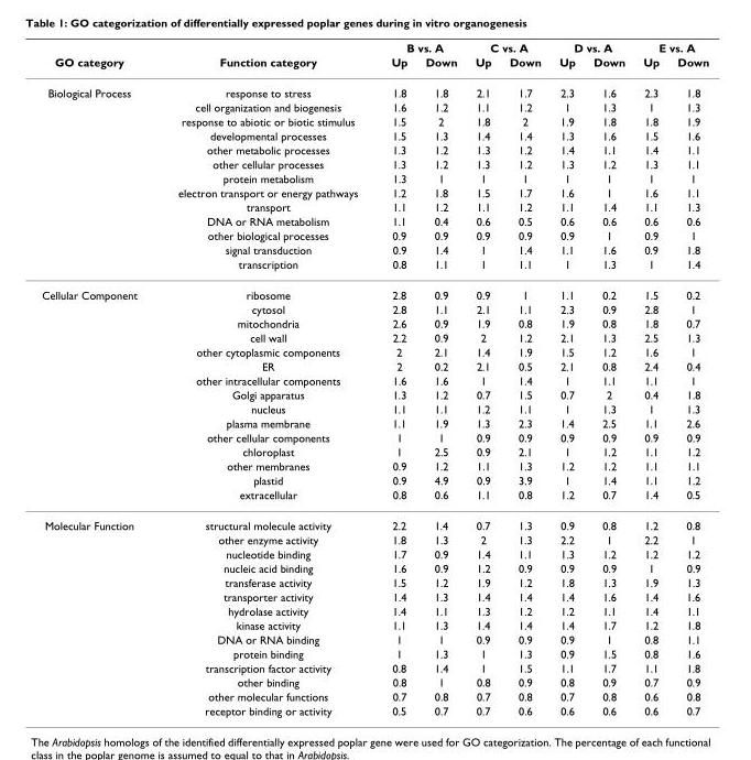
<table><thead><tr><td rowspan="2">GO category</td><td rowspan="2">Function category</td><td colspan="2">B vs. A</td><td colspan="2">C vs. A</td><td colspan="2">D vs. A</td><td colspan="2">E vs. A</td></tr><tr><td>Up</td><td>Down</td><td>Up</td><td>Down</td><td>Up</td><td>Down</td><td>Up</td><td>Down</td></tr></thead><tbody><tr><td rowspan="13">Biological Process</td><td>response to stress</td><td>1.8</td><td>1.8</td><td>2.1</td><td>1.7</td><td>2.3</td><td>1.6</td><td>2.3</td><td>1.8</td></tr><tr><td>cell organization and biogenesis</td><td>1.6</td><td>1.2</td><td>1.1</td><td>1.2</td><td>1</td><td>1.3</td><td>1</td><td>1.3</td></tr><tr><td>response to abiotic or biotic stimulus</td><td>1.5</td><td>2</td><td>1.8</td><td>2</td><td>1.9</td><td>1.8</td><td>1.8</td><td>1.9</td></tr><tr><td>developmental processes</td><td>1.5</td><td>1.3</td><td>1.4</td><td>1.4</td><td>1.3</td><td>1.6</td><td>1.5</td><td>1.6</td></tr><tr><td>other metabolic processes</td><td>1.3</td><td>1.2</td><td>1.3</td><td>1.2</td><td>1.4</td><td>1.1</td><td>1.4</td><td>1.1</td></tr><tr><td>other cellular processes</td><td>1.3</td><td>1.2</td><td>1.3</td><td>1.2</td><td>1.3</td><td>1.2</td><td>1.3</td><td>1.1</td></tr><tr><td>protein metabolism</td><td>1.3</td><td>1</td><td>1</td><td>1</td><td>1</td><td>1</td><td>1</td><td>1</td></tr><tr><td>electron transport or energy pathways</td><td>1.2</td><td>1.8</td><td>1.5</td><td>1.7</td><td>1.6</td><td>1</td><td>1.6</td><td>1.1</td></tr><tr><td>transport</td><td>1.1</td><td>1.2</td><td>1.1</td><td>1.2</td><td>1.1</td><td>1.4</td><td>1.1</td><td>1.3</td></tr><tr><td>DNA or RNA metabolism</td><td>1.1</td><td>0.4</td><td>0.6</td><td>0.5</td><td>0.6</td><td>0.6</td><td>0.6</td><td>0.6</td></tr><tr><td>other biological processes</td><td>0.9</td><td>0.9</td><td>0.9</td><td>0.9</td><td>0.9</td><td>1</td><td>0.9</td><td>1</td></tr><tr><td>signal transduction</td><td>0.9</td><td>1.4</td><td>1</td><td>1.4</td><td>1.1</td><td>1.6</td><td>0.9</td><td>1.8</td></tr><tr><td>transcription</td><td>0.8</td><td>1.1</td><td>1</td><td>1.1</td><td>1</td><td>1.3</td><td>1</td><td>1.4</td></tr><tr><td rowspan="15">Cellular Component</td><td>ribosome</td><td>2.8</td><td>0.9</td><td>0.9</td><td>1</td><td>1.1</td><td>0.2</td><td>1.5</td><td>0.2</td></tr><tr><td>cytosol</td><td>2.8</td><td>1.1</td><td>2.1</td><td>1.1</td><td>2.3</td><td>0.9</td><td>2.8</td><td>1</td></tr><tr><td>mitochondria</td><td>2.6</td><td>0.9</td><td>1.9</td><td>0.8</td><td>1.9</td><td>0.8</td><td>1.8</td><td>0.7</td></tr><tr><td>cell wall</td><td>2.2</td><td>0.9</td><td>2</td><td>1.2</td><td>2.1</td><td>1.3</td><td>2.5</td><td>1.3</td></tr><tr><td>other cytoplasmic components</td><td>2</td><td>2.1</td><td>1.4</td><td>1.9</td><td>1.5</td><td>1.2</td><td>1.6</td><td>1</td></tr><tr><td>ER</td><td>2</td><td>0.2</td><td>2.1</td><td>0.5</td><td>2.1</td><td>0.8</td><td>2.4</td><td>0.4</td></tr><tr><td>other intracellular components</td><td>1.6</td><td>1.6</td><td>1</td><td>1.4</td><td>1</td><td>1.1</td><td>1.1</td><td>1</td></tr><tr><td>Golgi apparatus</td><td>1.3</td><td>1.2</td><td>0.7</td><td>1.5</td><td>0.7</td><td>2</td><td>0.4</td><td>1.8</td></tr><tr><td>nucleus</td><td>1.1</td><td>1.1</td><td>1.2</td><td>1.1</td><td>1</td><td>1.3</td><td>1</td><td>1.3</td></tr><tr><td>plasma membrane</td><td>1.1</td><td>1.9</td><td>1.3</td><td>2.3</td><td>1.4</td><td>2.5</td><td>1.1</td><td>2.6</td></tr><tr><td>other cellular components</td><td>1</td><td>1</td><td>0.9</td><td>0.9</td><td>0.9</td><td>0.9</td><td>0.9</td><td>0.9</td></tr><tr><td>chloroplast</td><td>1</td><td>2.5</td><td>0.9</td><td>2.1</td><td>1</td><td>1.2</td><td>1.1</td><td>1.2</td></tr><tr><td>other membranes</td><td>0.9</td><td>1.2</td><td>1.1</td><td>1.3</td><td>1.2</td><td>1.2</td><td>1.1</td><td>1.1</td></tr><tr><td>plastid</td><td>0.9</td><td>4.9</td><td>0.9</td><td>3.9</td><td>1</td><td>1.4</td><td>1.1</td><td>1.2</td></tr><tr><td>extracellular</td><td>0.8</td><td>0.6</td><td>1.1</td><td>0.8</td><td>1.2</td><td>0.7</td><td>1.4</td><td>0.5</td></tr><tr><td rowspan="14">Molecular Function</td><td>structural molecule activity</td><td>2.2</td><td>1.4</td><td>0.7</td><td>1.3</td><td>0.9</td><td>0.8</td><td>1.2</td><td>0.8</td></tr><tr><td>other enzyme activity</td><td>1.8</td><td>1.3</td><td>2</td><td>1.3</td><td>2.2</td><td>1</td><td>2.2</td><td>1</td></tr><tr><td>nucleotide binding</td><td>1.7</td><td>0.9</td><td>1.4</td><td>1.1</td><td>1.3</td><td>1.2</td><td>1.2</td><td>1.2</td></tr><tr><td>nucleic acid binding</td><td>1.6</td><td>0.9</td><td>1.2</td><td>0.9</td><td>0.9</td><td>0.9</td><td>1</td><td>0.9</td></tr><tr><td>transferase activity</td><td>1.5</td><td>1.2</td><td>1.9</td><td>1.2</td><td>1.8</td><td>1.3</td><td>1.9</td><td>1.3</td></tr><tr><td>transporter activity</td><td>1.4</td><td>1.3</td><td>1.4</td><td>1.4</td><td>1.4</td><td>1.6</td><td>1.4</td><td>1.6</td></tr><tr><td>hydrolase activity</td><td>1.4</td><td>1.1</td><td>1.3</td><td>1.2</td><td>1.2</td><td>1.1</td><td>1.4</td><td>1.1</td></tr><tr><td>kinase activity</td><td>1.1</td><td>1.3</td><td>1.4</td><td>1.4</td><td>1.4</td><td>1.7</td><td>1.2</td><td>1.8</td></tr><tr><td>DNA or RNA binding</td><td>1</td><td>1</td><td>0.9</td><td>0.9</td><td>0.9</td><td>1</td><td>0.8</td><td>1.1</td></tr><tr><td>protein binding</td><td>1</td><td>1.3</td><td>1</td><td>1.3</td><td>0.9</td><td>1.5</td><td>0.8</td><td>1.6</td></tr><tr><td>transcription factor activity</td><td>0.8</td><td>1.4</td><td>1</td><td>1.5</td><td>1.1</td><td>1.7</td><td>1.1</td><td>1.8</td></tr><tr><td>other binding</td><td>0.8</td><td>1</td><td>0.8</td><td>0.9</td><td>0.8</td><td>0.9</td><td>0.7</td><td>0.9</td></tr><tr><td>other molecular functions</td><td>0.7</td><td>0.8</td><td>0.7</td><td>0.8</td><td>0.7</td><td>0.8</td><td>0.6</td><td>0.8</td></tr><tr><td>receptor binding or activity</td><td>0.5</td><td>0.7</td><td>0.7</td><td>0.6</td><td>0.6</td><td>0.6</td><td>0.6</td><td>0.7</td></tr></tbody></table>